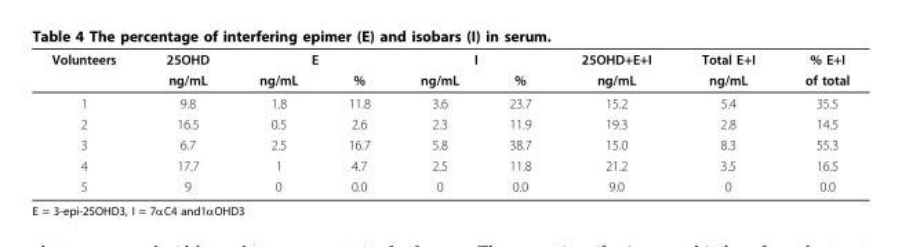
<table><thead><tr><td rowspan="2">Volunteers</td><td rowspan="2">25OHD ng/mL</td><td colspan="2">E</td><td colspan="2">I</td><td rowspan="2">25OHD+E+I ng/mL</td><td rowspan="2">Total E+I ng/mL</td><td rowspan="2">% E+I of total</td></tr><tr><td>ng/mL</td><td>%</td><td>ng/mL</td><td>%</td></tr></thead><tbody><tr><td>1</td><td>9.8</td><td>1.8</td><td>11.8</td><td>3.6</td><td>23.7</td><td>15.2</td><td>5.4</td><td>35.5</td></tr><tr><td>2</td><td>16.5</td><td>0.5</td><td>2.6</td><td>2.3</td><td>11.9</td><td>19.3</td><td>2.8</td><td>14.5</td></tr><tr><td>3</td><td>6.7</td><td>2.5</td><td>16.7</td><td>5.8</td><td>38.7</td><td>15.0</td><td>8.3</td><td>55.3</td></tr><tr><td>4</td><td>17.7</td><td>1</td><td>4.7</td><td>2.5</td><td>11.8</td><td>21.2</td><td>3.5</td><td>16.5</td></tr><tr><td>5</td><td>9</td><td>0</td><td>0.0</td><td>0</td><td>0.0</td><td>9.0</td><td>0</td><td>0.0</td></tr></tbody></table>